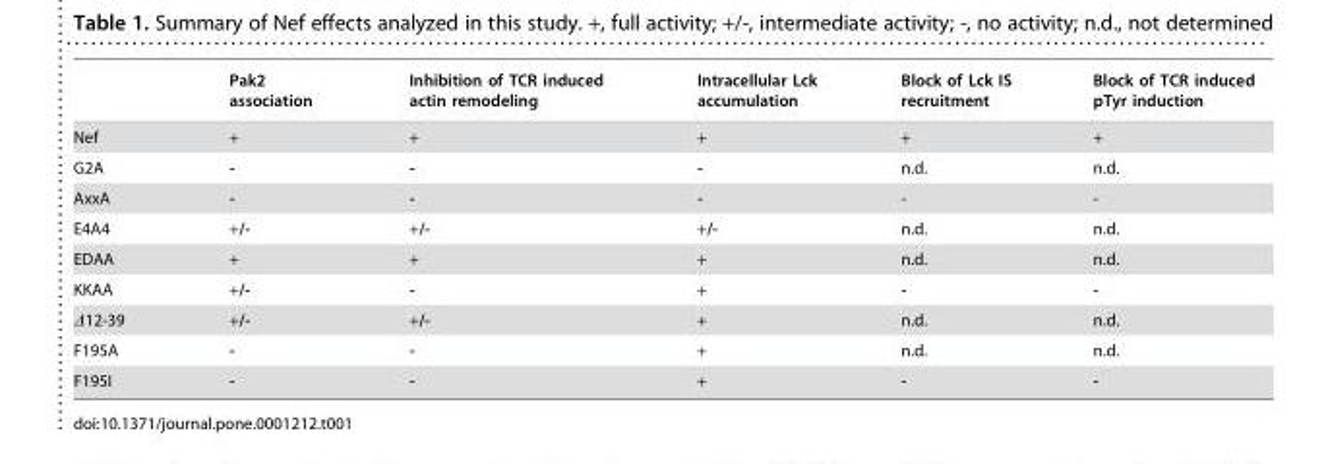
<table><thead><tr><td></td><td>Pak2 association</td><td>Inhibition of TCR induced actin remodeling</td><td>Intracellular Lck accumulation</td><td>Block of Lck IS recruitment</td><td>Block of TCR induced pTyr induction</td></tr></thead><tbody><tr><td>Nef</td><td>+</td><td>+</td><td>+</td><td>+</td><td>+</td></tr><tr><td>G2A</td><td>-</td><td>-</td><td>-</td><td>n.d.</td><td>n.d.</td></tr><tr><td>AxxA</td><td>-</td><td>-</td><td>-</td><td>-</td><td>-</td></tr><tr><td>E4A4</td><td>+/-</td><td>+/-</td><td>+/-</td><td>n.d.</td><td>n.d.</td></tr><tr><td>EDAA</td><td>+</td><td>+</td><td>+</td><td>n.d.</td><td>n.d.</td></tr><tr><td>KKAA</td><td>+/-</td><td>-</td><td>+</td><td>-</td><td>-</td></tr><tr><td>Δ12-39</td><td>+/-</td><td>+/-</td><td>+</td><td>n.d.</td><td>n.d.</td></tr><tr><td>F195A</td><td>-</td><td>-</td><td>+</td><td>n.d.</td><td>n.d.</td></tr><tr><td>F195I</td><td>-</td><td>-</td><td>+</td><td>-</td><td>-</td></tr></tbody></table>